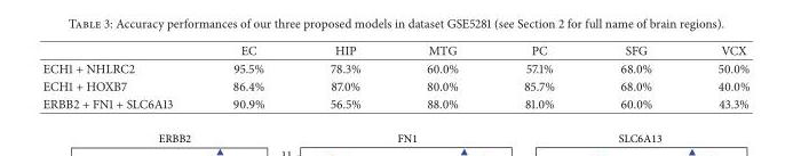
<table><thead><tr><td></td><td>EC</td><td>HIP</td><td>MTG</td><td>PC</td><td>SFG</td><td>VCX</td></tr></thead><tbody><tr><td>ECH1 + NHLRC2</td><td>95.5%</td><td>78.3%</td><td>60.0%</td><td>57.1%</td><td>68.0%</td><td>50.0%</td></tr><tr><td>ECH1 + HOXB7</td><td>86.4%</td><td>87.0%</td><td>80.0%</td><td>85.7%</td><td>68.0%</td><td>40.0%</td></tr><tr><td>ERBB2 + FN1 + SLC6A13</td><td>90.9%</td><td>56.5%</td><td>88.0%</td><td>81.0%</td><td>60.0%</td><td>43.3%</td></tr></tbody></table>